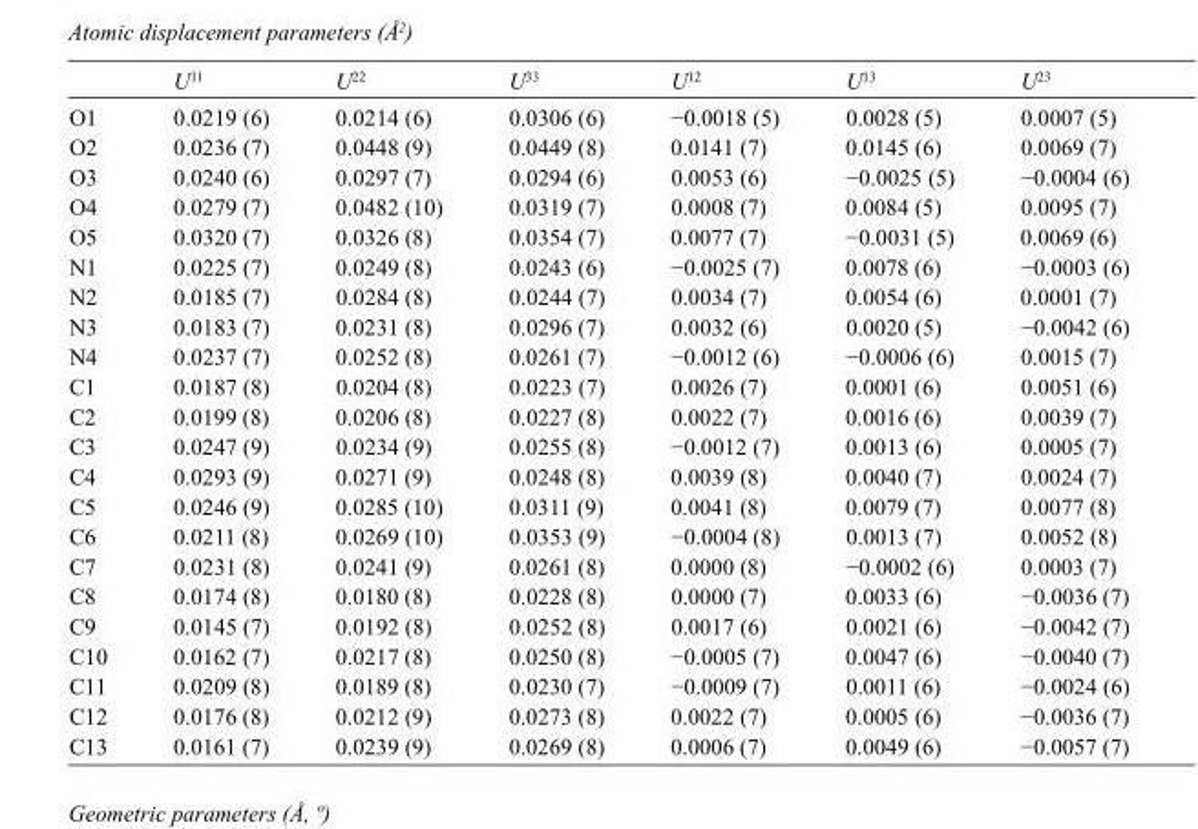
<table><thead><tr><td></td><td>U<sup>11</sup></td><td>U<sup>22</sup></td><td>U<sup>33</sup></td><td>U<sup>12</sup></td><td>U<sup>13</sup></td><td>U<sup>23</sup></td></tr></thead><tbody><tr><td>O1</td><td>0.0219 (6)</td><td>0.0214 (6)</td><td>0.0306 (6)</td><td>−0.0018 (5)</td><td>0.0028 (5)</td><td>0.0007 (5)</td></tr><tr><td>O2</td><td>0.0236 (7)</td><td>0.0448 (9)</td><td>0.0449 (8)</td><td>0.0141 (7)</td><td>0.0145 (6)</td><td>0.0069 (7)</td></tr><tr><td>O3</td><td>0.0240 (6)</td><td>0.0297 (7)</td><td>0.0294 (6)</td><td>0.0053 (6)</td><td>−0.0025 (5)</td><td>−0.0004 (6)</td></tr><tr><td>O4</td><td>0.0279 (7)</td><td>0.0482 (10)</td><td>0.0319 (7)</td><td>0.0008 (7)</td><td>0.0084 (5)</td><td>0.0095 (7)</td></tr><tr><td>O5</td><td>0.0320 (7)</td><td>0.0326 (8)</td><td>0.0354 (7)</td><td>0.0077 (7)</td><td>−0.0031 (5)</td><td>0.0069 (6)</td></tr><tr><td>N1</td><td>0.0225 (7)</td><td>0.0249 (8)</td><td>0.0243 (6)</td><td>−0.0025 (7)</td><td>0.0078 (6)</td><td>−0.0003 (6)</td></tr><tr><td>N2</td><td>0.0185 (7)</td><td>0.0284 (8)</td><td>0.0244 (7)</td><td>0.0034 (7)</td><td>0.0054 (6)</td><td>0.0001 (7)</td></tr><tr><td>N3</td><td>0.0183 (7)</td><td>0.0231 (8)</td><td>0.0296 (7)</td><td>0.0032 (6)</td><td>0.0020 (5)</td><td>−0.0042 (6)</td></tr><tr><td>N4</td><td>0.0237 (7)</td><td>0.0252 (8)</td><td>0.0261 (7)</td><td>−0.0012 (6)</td><td>−0.0006 (6)</td><td>0.0015 (7)</td></tr><tr><td>C1</td><td>0.0187 (8)</td><td>0.0204 (8)</td><td>0.0223 (7)</td><td>0.0026 (7)</td><td>0.0001 (6)</td><td>0.0051 (6)</td></tr><tr><td>C2</td><td>0.0199 (8)</td><td>0.0206 (8)</td><td>0.0227 (8)</td><td>0.0022 (7)</td><td>0.0016 (6)</td><td>0.0039 (7)</td></tr><tr><td>C3</td><td>0.0247 (9)</td><td>0.0234 (9)</td><td>0.0255 (8)</td><td>−0.0012 (7)</td><td>0.0013 (6)</td><td>0.0005 (7)</td></tr><tr><td>C4</td><td>0.0293 (9)</td><td>0.0271 (9)</td><td>0.0248 (8)</td><td>0.0039 (8)</td><td>0.0040 (7)</td><td>0.0024 (7)</td></tr><tr><td>C5</td><td>0.0246 (9)</td><td>0.0285 (10)</td><td>0.0311 (9)</td><td>0.0041 (8)</td><td>0.0079 (7)</td><td>0.0077 (8)</td></tr><tr><td>C6</td><td>0.0211 (8)</td><td>0.0269 (10)</td><td>0.0353 (9)</td><td>−0.0004 (8)</td><td>0.0013 (7)</td><td>0.0052 (8)</td></tr><tr><td>C7</td><td>0.0231 (8)</td><td>0.0241 (9)</td><td>0.0261 (8)</td><td>0.0000 (8)</td><td>−0.0002 (6)</td><td>0.0003 (7)</td></tr><tr><td>C8</td><td>0.0174 (8)</td><td>0.0180 (8)</td><td>0.0228 (8)</td><td>0.0000 (7)</td><td>0.0033 (6)</td><td>−0.0036 (7)</td></tr><tr><td>C9</td><td>0.0145 (7)</td><td>0.0192 (8)</td><td>0.0252 (8)</td><td>0.0017 (6)</td><td>0.0021 (6)</td><td>−0.0042 (7)</td></tr><tr><td>C10</td><td>0.0162 (7)</td><td>0.0217 (8)</td><td>0.0250 (8)</td><td>−0.0005 (7)</td><td>0.0047 (6)</td><td>−0.0040 (7)</td></tr><tr><td>C11</td><td>0.0209 (8)</td><td>0.0189 (8)</td><td>0.0230 (7)</td><td>−0.0009 (7)</td><td>0.0011 (6)</td><td>−0.0024 (6)</td></tr><tr><td>C12</td><td>0.0176 (8)</td><td>0.0212 (9)</td><td>0.0273 (8)</td><td>0.0022 (7)</td><td>0.0005 (6)</td><td>−0.0036 (7)</td></tr><tr><td>C13</td><td>0.0161 (7)</td><td>0.0239 (9)</td><td>0.0269 (8)</td><td>0.0006 (7)</td><td>0.0049 (6)</td><td>−0.0057 (7)</td></tr></tbody></table>